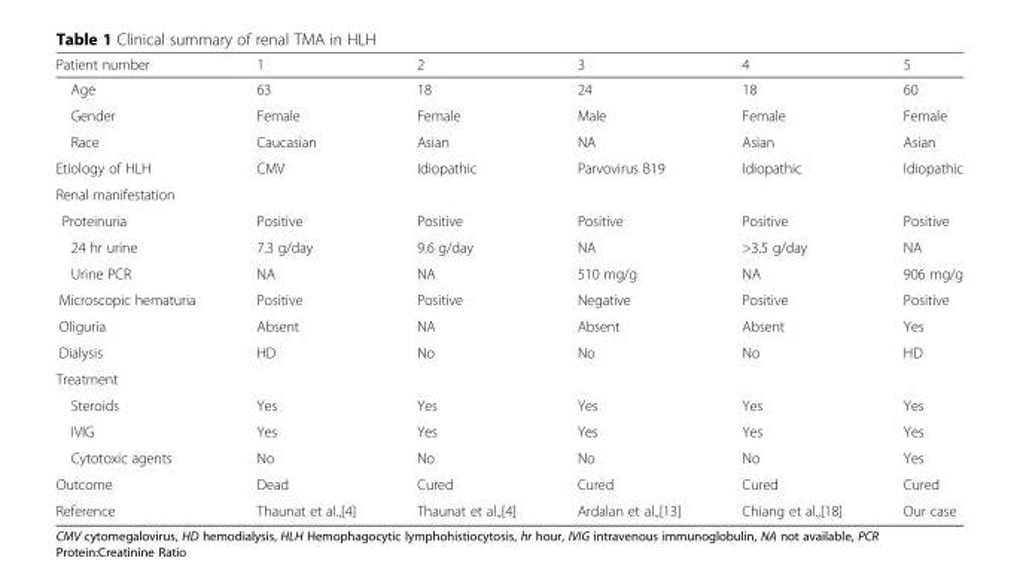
<table><thead><tr><td>Patient number</td><td>1</td><td>2</td><td>3</td><td>4</td><td>5</td></tr></thead><tbody><tr><td>Age</td><td>63</td><td>18</td><td>24</td><td>18</td><td>60</td></tr><tr><td>Gender</td><td>Female</td><td>Female</td><td>Male</td><td>Female</td><td>Female</td></tr><tr><td>Race</td><td>Caucasian</td><td>Asian</td><td>NA</td><td>Asian</td><td>Asian</td></tr><tr><td>Etiology of HLH</td><td>CMV</td><td>Idiopathic</td><td>Parvovirus B19</td><td>Idiopathic</td><td>Idiopathic</td></tr><tr><td colspan="6">Renal manifestation</td></tr><tr><td>Proteinuria</td><td>Positive</td><td>Positive</td><td>Positive</td><td>Positive</td><td>Positive</td></tr><tr><td>24 hr urine</td><td>7.3 g/day</td><td>9.6 g/day</td><td>NA</td><td>&gt;3.5 g/day</td><td>NA</td></tr><tr><td>Urine PCR</td><td>NA</td><td>NA</td><td>510 mg/g</td><td>NA</td><td>906 mg/g</td></tr><tr><td>Microscopic hematuria</td><td>Positive</td><td>Positive</td><td>Negative</td><td>Positive</td><td>Positive</td></tr><tr><td>Oliguria</td><td>Absent</td><td>NA</td><td>Absent</td><td>Absent</td><td>Yes</td></tr><tr><td>Dialysis</td><td>HD</td><td>No</td><td>No</td><td>No</td><td>HD</td></tr><tr><td colspan="6">Treatment</td></tr><tr><td>Steroids</td><td>Yes</td><td>Yes</td><td>Yes</td><td>Yes</td><td>Yes</td></tr><tr><td>IVIG</td><td>Yes</td><td>Yes</td><td>Yes</td><td>Yes</td><td>Yes</td></tr><tr><td>Cytotoxic agents</td><td>No</td><td>No</td><td>No</td><td>No</td><td>Yes</td></tr><tr><td>Outcome</td><td>Dead</td><td>Cured</td><td>Cured</td><td>Cured</td><td>Cured</td></tr><tr><td>Reference</td><td>Thaunat et al.,[4]</td><td>Thaunat et al.,[4]</td><td>Ardalan et al.,[13]</td><td>Chiang et al.,[18]</td><td>Our case</td></tr></tbody></table>